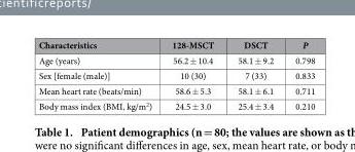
<table><thead><tr><td>Characteristics</td><td>128-MSCT</td><td>DSCT</td><td>P</td></tr></thead><tbody><tr><td>Age (years)</td><td>56.2 ± 10.4</td><td>58.1 ± 9.2</td><td>0.798</td></tr><tr><td>Sex [female (male)]</td><td>10 (30)</td><td>7 (33)</td><td>0.833</td></tr><tr><td>Mean heart rate (beats/min)</td><td>58.6 ± 5.3</td><td>58.1 ± 6.1</td><td>0.711</td></tr><tr><td>Body mass index (BMI, kg/m<sup>2</sup>)</td><td>24.5 ± 3.0</td><td>25.4 ± 3.4</td><td>0.210</td></tr></tbody></table>